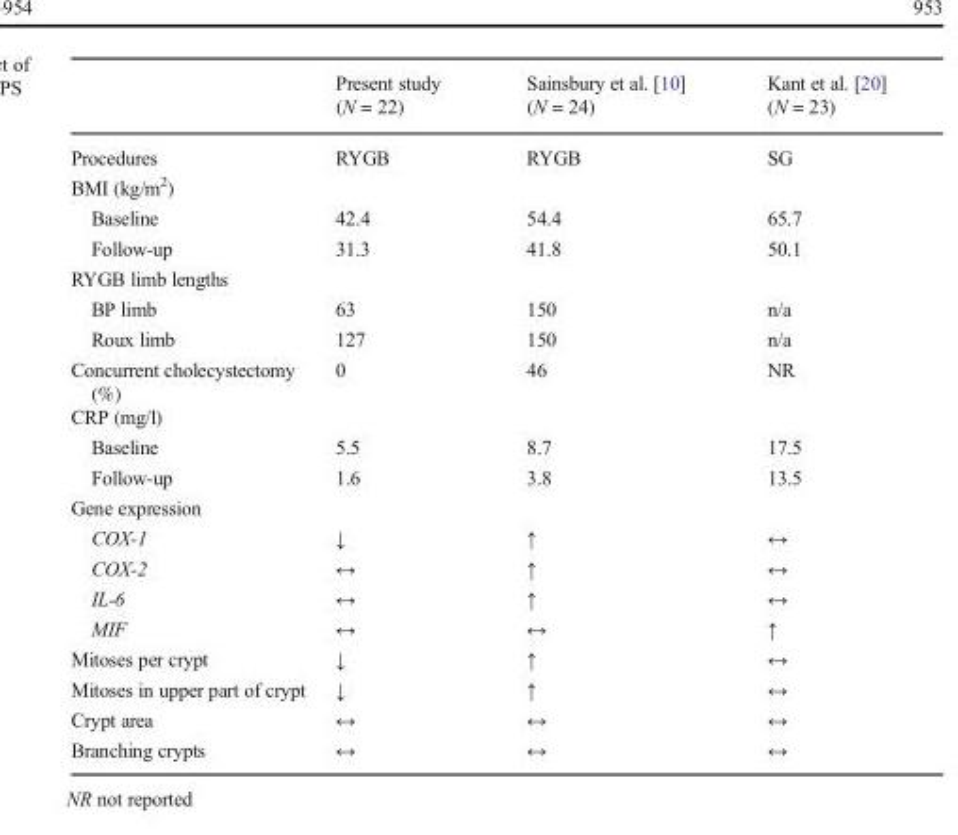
<table><thead><tr><td></td><td>Present study (N = 22)</td><td>Sainsbury et al. [10] (N = 24)</td><td>Kant et al. [20] (N = 23)</td></tr></thead><tbody><tr><td>Procedures</td><td>RYGB</td><td>RYGB</td><td>SG</td></tr><tr><td colspan="4">BMI (kg/m<sup>2</sup>)</td></tr><tr><td>Baseline</td><td>42.4</td><td>54.4</td><td>65.7</td></tr><tr><td>Follow-up</td><td>31.3</td><td>41.8</td><td>50.1</td></tr><tr><td colspan="4">RYGB limb lengths</td></tr><tr><td>BP limb</td><td>63</td><td>150</td><td>n/a</td></tr><tr><td>Roux limb</td><td>127</td><td>150</td><td>n/a</td></tr><tr><td>Concurrent cholecystectomy (%)</td><td>0</td><td>46</td><td>NR</td></tr><tr><td colspan="4">CRP (mg/l)</td></tr><tr><td>Baseline</td><td>5.5</td><td>8.7</td><td>17.5</td></tr><tr><td>Follow-up</td><td>1.6</td><td>3.8</td><td>13.5</td></tr><tr><td colspan="4">Gene expression</td></tr><tr><td>COX-1</td><td>↓</td><td>↑</td><td>↔</td></tr><tr><td>COX-2</td><td>↔</td><td>↑</td><td>↔</td></tr><tr><td>IL-6</td><td>↔</td><td>↑</td><td>↔</td></tr><tr><td>MIF</td><td>↔</td><td>↔</td><td>↑</td></tr><tr><td>Mitoses per crypt</td><td>↓</td><td>↑</td><td>↔</td></tr><tr><td>Mitoses in upper part of crypt</td><td>↓</td><td>↑</td><td>↔</td></tr><tr><td>Crypt area</td><td>↔</td><td>↔</td><td>↔</td></tr><tr><td>Branching crypts</td><td>↔</td><td>↔</td><td>↔</td></tr></tbody></table>